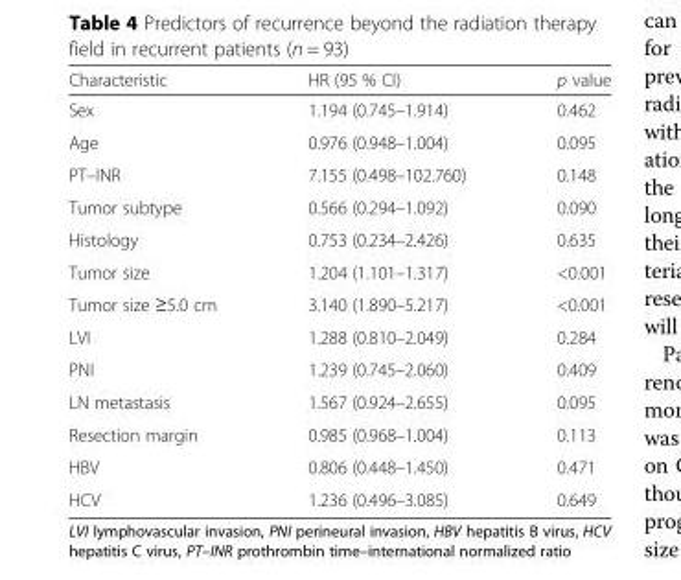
<table><thead><tr><td>Characteristic</td><td>HR (95 % CI)</td><td>p value</td></tr></thead><tbody><tr><td>Sex</td><td>1.194 (0.745–1.914)</td><td>0.462</td></tr><tr><td>Age</td><td>0.976 (0.948–1.004)</td><td>0.095</td></tr><tr><td>PT–INR</td><td>7.155 (0.498–102.760)</td><td>0.148</td></tr><tr><td>Tumor subtype</td><td>0.566 (0.294–1.092)</td><td>0.090</td></tr><tr><td>Histology</td><td>0.753 (0.234–2.426)</td><td>0.635</td></tr><tr><td>Tumor size</td><td>1.204 (1.101–1.317)</td><td>&lt;0.001</td></tr><tr><td>Tumor size ≥5.0 cm</td><td>3.140 (1.890–5.217)</td><td>&lt;0.001</td></tr><tr><td>LVI</td><td>1.288 (0.810–2.049)</td><td>0.284</td></tr><tr><td>PNI</td><td>1.239 (0.745–2.060)</td><td>0.409</td></tr><tr><td>LN metastasis</td><td>1.567 (0.924–2.655)</td><td>0.095</td></tr><tr><td>Resection margin</td><td>0.985 (0.968–1.004)</td><td>0.113</td></tr><tr><td>HBV</td><td>0.806 (0.448–1.450)</td><td>0.471</td></tr><tr><td>HCV</td><td>1.236 (0.496–3.085)</td><td>0.649</td></tr></tbody></table>